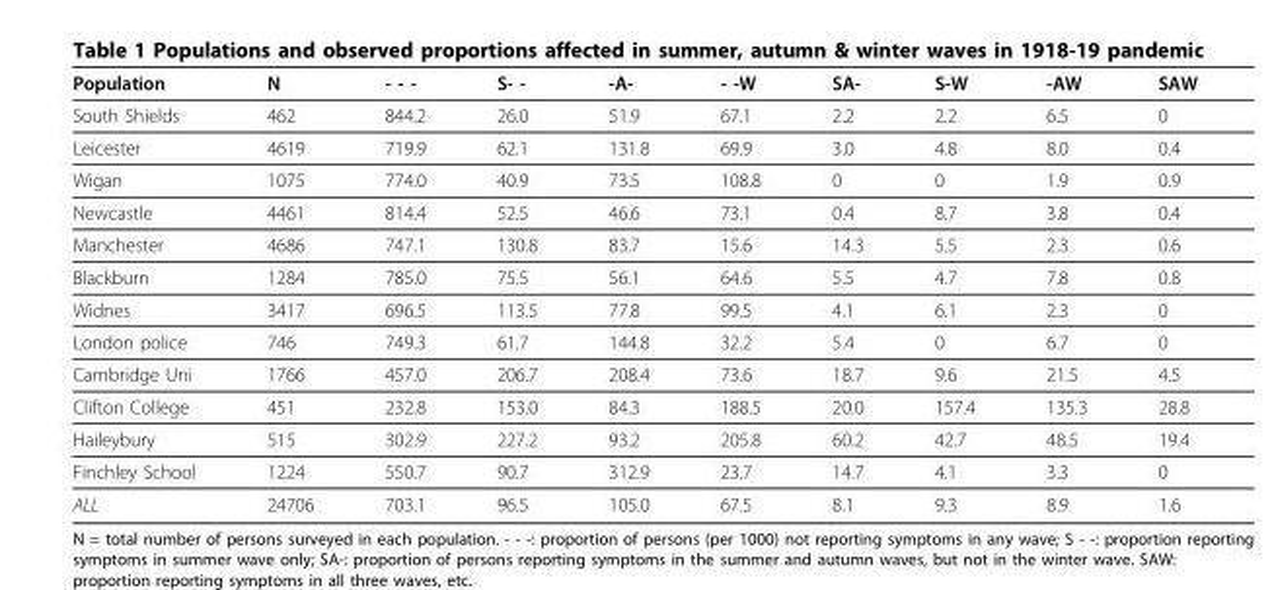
<table><thead><tr><td>Population</td><td>N</td><td>- - -</td><td>S- -</td><td>-A-</td><td>- -W</td><td>SA-</td><td>S-W</td><td>-AW</td><td>SAW</td></tr></thead><tbody><tr><td>South Shields</td><td>462</td><td>844.2</td><td>26.0</td><td>51.9</td><td>67.1</td><td>2.2</td><td>2.2</td><td>6.5</td><td>0</td></tr><tr><td>Leicester</td><td>4619</td><td>719.9</td><td>62.1</td><td>131.8</td><td>69.9</td><td>3.0</td><td>4.8</td><td>8.0</td><td>0.4</td></tr><tr><td>Wigan</td><td>1075</td><td>774.0</td><td>40.9</td><td>73.5</td><td>108.8</td><td>0</td><td>0</td><td>1.9</td><td>0.9</td></tr><tr><td>Newcastle</td><td>4461</td><td>814.4</td><td>52.5</td><td>46.6</td><td>73.1</td><td>0.4</td><td>8.7</td><td>3.8</td><td>0.4</td></tr><tr><td>Manchester</td><td>4686</td><td>747.1</td><td>130.8</td><td>83.7</td><td>15.6</td><td>14.3</td><td>5.5</td><td>2.3</td><td>0.6</td></tr><tr><td>Blackburn</td><td>1284</td><td>785.0</td><td>75.5</td><td>56.1</td><td>64.6</td><td>5.5</td><td>4.7</td><td>7.8</td><td>0.8</td></tr><tr><td>Widnes</td><td>3417</td><td>696.5</td><td>113.5</td><td>77.8</td><td>99.5</td><td>4.1</td><td>6.1</td><td>2.3</td><td>0</td></tr><tr><td>London police</td><td>746</td><td>749.3</td><td>61.7</td><td>144.8</td><td>32.2</td><td>5.4</td><td>0</td><td>6.7</td><td>0</td></tr><tr><td>Cambridge Uni</td><td>1766</td><td>457.0</td><td>206.7</td><td>208.4</td><td>73.6</td><td>18.7</td><td>9.6</td><td>21.5</td><td>4.5</td></tr><tr><td>Clifton College</td><td>451</td><td>232.8</td><td>153.0</td><td>84.3</td><td>188.5</td><td>20.0</td><td>157.4</td><td>135.3</td><td>28.8</td></tr><tr><td>Haileybury</td><td>515</td><td>302.9</td><td>227.2</td><td>93.2</td><td>205.8</td><td>60.2</td><td>42.7</td><td>48.5</td><td>19.4</td></tr><tr><td>Finchley School</td><td>1224</td><td>550.7</td><td>90.7</td><td>312.9</td><td>23.7</td><td>14.7</td><td>4.1</td><td>3.3</td><td>0</td></tr><tr><td>ALL</td><td>24706</td><td>703.1</td><td>96.5</td><td>105.0</td><td>67.5</td><td>8.1</td><td>9.3</td><td>8.9</td><td>1.6</td></tr></tbody></table>